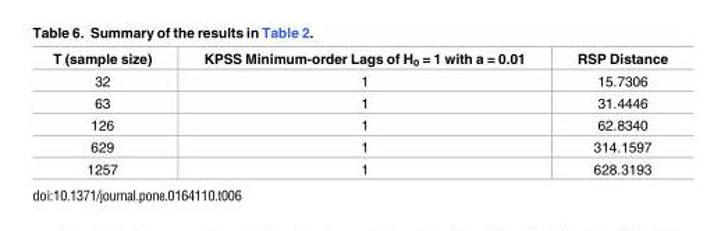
<table><thead><tr><td>T (sample size)</td><td>KPSS Minimum-order Lags of H<sub>0</sub> = 1 with a = 0.01</td><td>RSP Distance</td></tr></thead><tbody><tr><td>32</td><td>1</td><td>15.7306</td></tr><tr><td>63</td><td>1</td><td>31.4446</td></tr><tr><td>126</td><td>1</td><td>62.8340</td></tr><tr><td>629</td><td>1</td><td>314.1597</td></tr><tr><td>1257</td><td>1</td><td>628.3193</td></tr></tbody></table>